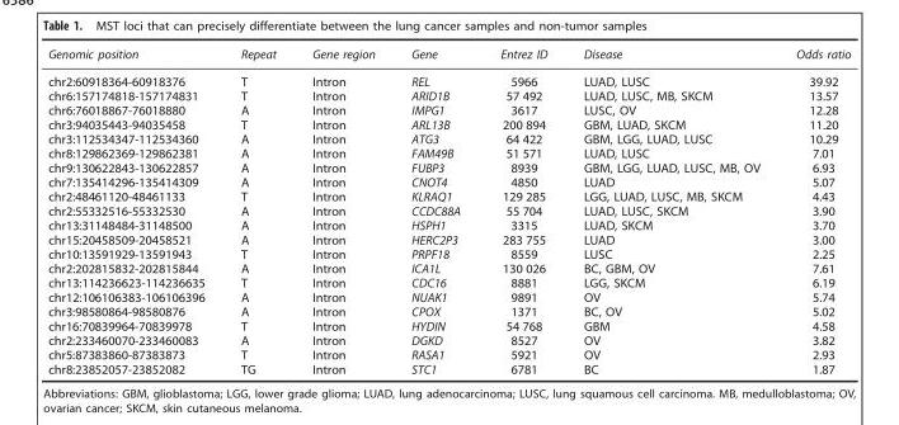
<table><thead><tr><td>Genomic position</td><td>Repeat</td><td>Gene region</td><td>Gene</td><td>Entrez ID</td><td>Disease</td><td>Odds ratio</td></tr></thead><tbody><tr><td>chr2:60918364-60918376</td><td>T</td><td>Intron</td><td>REL</td><td>5966</td><td>LUAD, LUSC</td><td>39.92</td></tr><tr><td>chr6:157174818-157174831</td><td>T</td><td>Intron</td><td>ARID1B</td><td>57 492</td><td>LUAD, LUSC, MB, SKCM</td><td>13.57</td></tr><tr><td>chr6:76018867-76018880</td><td>A</td><td>Intron</td><td>IMPG1</td><td>3617</td><td>LUSC, OV</td><td>12.28</td></tr><tr><td>chr3:94035443-94035458</td><td>T</td><td>Intron</td><td>ARL13B</td><td>200 894</td><td>GBM, LUAD, SKCM</td><td>11.20</td></tr><tr><td>chr3:112534347-112534360</td><td>A</td><td>Intron</td><td>ATG3</td><td>64 422</td><td>GBM, LGG, LUAD, LUSC</td><td>10.29</td></tr><tr><td>chr8:129862369-129862381</td><td>A</td><td>Intron</td><td>FAM49B</td><td>51 571</td><td>LUAD, LUSC</td><td>7.01</td></tr><tr><td>chr9:130622843-130622857</td><td>A</td><td>Intron</td><td>FUBP3</td><td>8939</td><td>GBM, LGG, LUAD, LUSC, MB, OV</td><td>6.93</td></tr><tr><td>chr7:135414296-135414309</td><td>A</td><td>Intron</td><td>CNOT4</td><td>4850</td><td>LUAD</td><td>5.07</td></tr><tr><td>chr2:48461120-48461133</td><td>T</td><td>Intron</td><td>KLRAQ1</td><td>129 285</td><td>LGG, LUAD, LUSC, MB, SKCM</td><td>4.43</td></tr><tr><td>chr2:55332516-55332530</td><td>A</td><td>Intron</td><td>CCDC88A</td><td>55 704</td><td>LUAD, LUSC, SKCM</td><td>3.90</td></tr><tr><td>chr13:31148484-31148500</td><td>A</td><td>Intron</td><td>HSPH1</td><td>3315</td><td>LUAD, SKCM</td><td>3.70</td></tr><tr><td>chr15:20458509-20458521</td><td>A</td><td>Intron</td><td>HERC2P3</td><td>283 755</td><td>LUAD</td><td>3.00</td></tr><tr><td>chr10:13591929-13591943</td><td>T</td><td>Intron</td><td>PRPF18</td><td>8559</td><td>LUSC</td><td>2.25</td></tr><tr><td>chr2:202815832-202815844</td><td>A</td><td>Intron</td><td>ICA1L</td><td>130 026</td><td>BC, GBM, OV</td><td>7.61</td></tr><tr><td>chr13:114236623-114236635</td><td>T</td><td>Intron</td><td>CDC16</td><td>8881</td><td>LGG, SKCM</td><td>6.19</td></tr><tr><td>chr12:106106383-106106396</td><td>A</td><td>Intron</td><td>NUAK1</td><td>9891</td><td>OV</td><td>5.74</td></tr><tr><td>chr3:98580864-98580876</td><td>A</td><td>Intron</td><td>CPOX</td><td>1371</td><td>BC, OV</td><td>5.02</td></tr><tr><td>chr16:70839964-70839978</td><td>T</td><td>Intron</td><td>HYDIN</td><td>54 768</td><td>GBM</td><td>4.58</td></tr><tr><td>chr2:233460070-233460083</td><td>A</td><td>Intron</td><td>DGKD</td><td>8527</td><td>OV</td><td>3.82</td></tr><tr><td>chr5:87383860-87383873</td><td>T</td><td>Intron</td><td>RASA1</td><td>5921</td><td>OV</td><td>2.93</td></tr><tr><td>chr8:23852057-23852082</td><td>TG</td><td>Intron</td><td>STC1</td><td>6781</td><td>BC</td><td>1.87</td></tr></tbody></table>